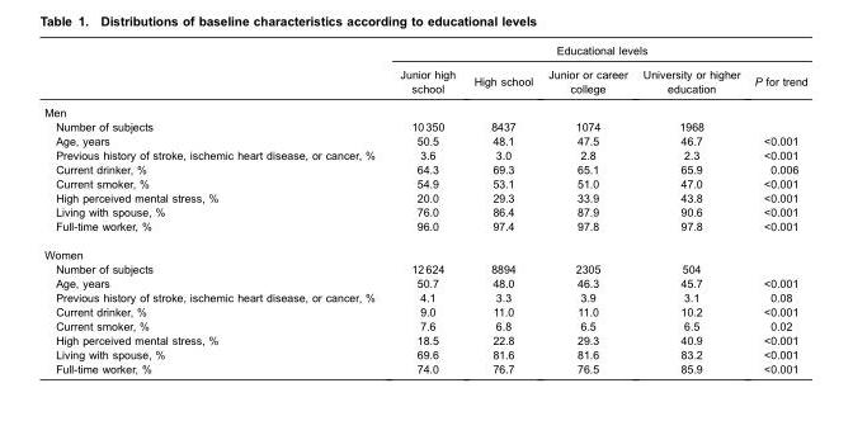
<table><thead><tr><td rowspan="2"></td><td colspan="5">Educational levels</td></tr><tr><td>Junior high school</td><td>High school</td><td>Junior or career college</td><td>University or higher education</td><td>P for trend</td></tr></thead><tbody><tr><td colspan="6">Men</td></tr><tr><td>Number of subjects</td><td>10 350</td><td>8437</td><td>1074</td><td>1968</td><td></td></tr><tr><td>Age, years</td><td>50.5</td><td>48.1</td><td>47.5</td><td>46.7</td><td>&lt;0.001</td></tr><tr><td>Previous history of stroke, ischemic heart disease, or cancer, %</td><td>3.6</td><td>3.0</td><td>2.8</td><td>2.3</td><td>&lt;0.001</td></tr><tr><td>Current drinker, %</td><td>64.3</td><td>69.3</td><td>65.1</td><td>65.9</td><td>0.006</td></tr><tr><td>Current smoker, %</td><td>54.9</td><td>53.1</td><td>51.0</td><td>47.0</td><td>&lt;0.001</td></tr><tr><td>High perceived mental stress, %</td><td>20.0</td><td>29.3</td><td>33.9</td><td>43.8</td><td>&lt;0.001</td></tr><tr><td>Living with spouse, %</td><td>76.0</td><td>86.4</td><td>87.9</td><td>90.6</td><td>&lt;0.001</td></tr><tr><td>Full-time worker, %</td><td>96.0</td><td>97.4</td><td>97.8</td><td>97.8</td><td>&lt;0.001</td></tr><tr><td colspan="6">Women</td></tr><tr><td>Number of subjects</td><td>12 624</td><td>8894</td><td>2305</td><td>504</td><td></td></tr><tr><td>Age, years</td><td>50.7</td><td>48.0</td><td>46.3</td><td>45.7</td><td>&lt;0.001</td></tr><tr><td>Previous history of stroke, ischemic heart disease, or cancer, %</td><td>4.1</td><td>3.3</td><td>3.9</td><td>3.1</td><td>0.08</td></tr><tr><td>Current drinker, %</td><td>9.0</td><td>11.0</td><td>11.0</td><td>10.2</td><td>&lt;0.001</td></tr><tr><td>Current smoker, %</td><td>7.6</td><td>6.8</td><td>6.5</td><td>6.5</td><td>0.02</td></tr><tr><td>High perceived mental stress, %</td><td>18.5</td><td>22.8</td><td>29.3</td><td>40.9</td><td>&lt;0.001</td></tr><tr><td>Living with spouse, %</td><td>69.6</td><td>81.6</td><td>81.6</td><td>83.2</td><td>&lt;0.001</td></tr><tr><td>Full-time worker, %</td><td>74.0</td><td>76.7</td><td>76.5</td><td>85.9</td><td>&lt;0.001</td></tr></tbody></table>